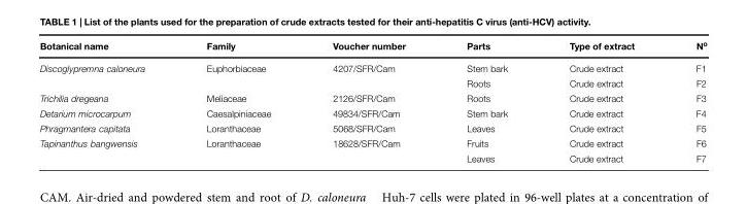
<table><thead><tr><td>Botanical name</td><td>Family</td><td>Voucher number</td><td>Parts</td><td>Type of extract</td><td>N<sup>o</sup></td></tr></thead><tbody><tr><td rowspan="2">Discoglypremna caloneura</td><td>Euphorbiaceae</td><td>4207/SFR/Cam</td><td>Stem bark</td><td>Crude extract</td><td>F1</td></tr><tr><td></td><td></td><td>Roots</td><td>Crude extract</td><td>F2</td></tr><tr><td>Trichilia dregeana</td><td>Meliaceae</td><td>2126/SFR/Cam</td><td>Roots</td><td>Crude extract</td><td>F3</td></tr><tr><td>Detarium microcarpum</td><td>Caesalpiniaceae</td><td>49834/SFR/Cam</td><td>Stem bark</td><td>Crude extract</td><td>F4</td></tr><tr><td>Phragmantera capitata</td><td>Loranthaceae</td><td>5068/SFR/Cam</td><td>Leaves</td><td>Crude extract</td><td>F5</td></tr><tr><td rowspan="2">Tapinanthus bangwensis</td><td>Loranthaceae</td><td>18628/SFR/Cam</td><td>Fruits</td><td>Crude extract</td><td>F6</td></tr><tr><td></td><td></td><td>Leaves</td><td>Crude extract</td><td>F7</td></tr></tbody></table>